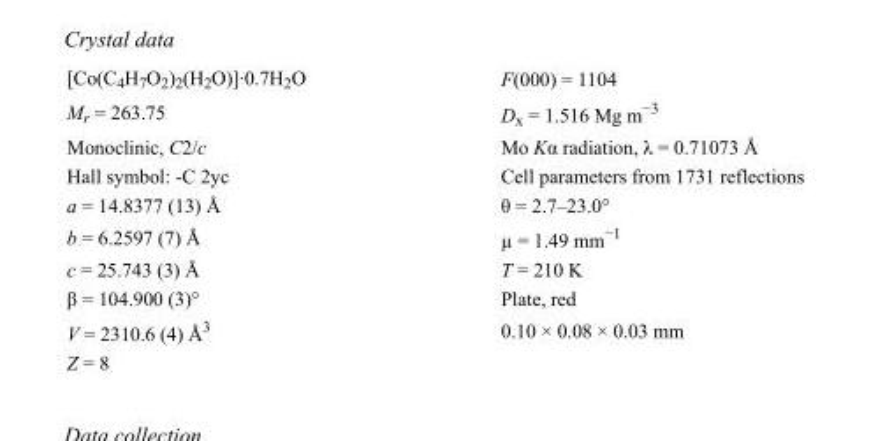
<table><tbody><tr><td>[Co(C<sub>4</sub>H<sub>7</sub>O<sub>2</sub>)<sub>2</sub>(H<sub>2</sub>O)]·0.7H<sub>2</sub>O</td><td>F(000) = 1104</td></tr><tr><td>M<sub>r</sub> = 263.75</td><td>D<sub>x</sub> = 1.516 Mg m<sup>−3</sup></td></tr><tr><td>Monoclinic, C2/c</td><td>Mo Kα radiation, λ = 0.71073 Å</td></tr><tr><td>Hall symbol: -C 2yc</td><td>Cell parameters from 1731 reflections</td></tr><tr><td>a = 14.8377 (13) Å</td><td>θ = 2.7–23.0°</td></tr><tr><td>b = 6.2597 (7) Å</td><td>µ = 1.49 mm<sup>−1</sup></td></tr><tr><td>c = 25.743 (3) Å</td><td>T = 210 K</td></tr><tr><td>β = 104.900 (3)°</td><td>Plate, red</td></tr><tr><td>V = 2310.6 (4) Å<sup>3</sup></td><td>0.10 × 0.08 × 0.03 mm</td></tr><tr><td>Z = 8</td><td></td></tr></tbody></table>